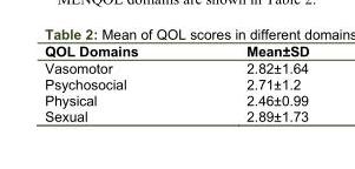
<table><thead><tr><td>QOL Domains</td><td>Mean±SD</td></tr></thead><tbody><tr><td>Vasomotor</td><td>2.82±1.64</td></tr><tr><td>Psychosocial</td><td>2.71±1.2</td></tr><tr><td>Physical</td><td>2.46±0.99</td></tr><tr><td>Sexual</td><td>2.89±1.73</td></tr></tbody></table>